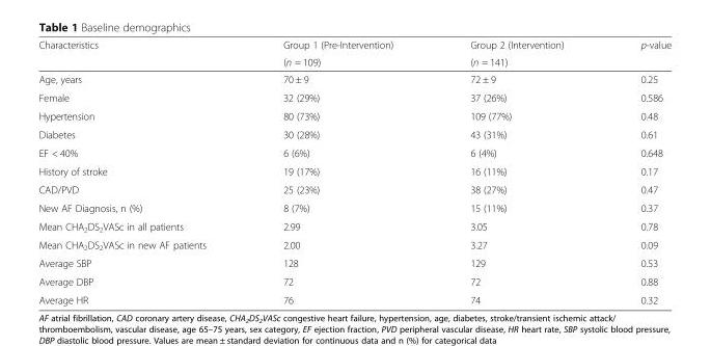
<table><thead><tr><td rowspan="2">Characteristics</td><td rowspan="2">Group 1 (Pre-Intervention) (n = 109)</td><td rowspan="2">Group 2 (Intervention) (n = 141)</td><td rowspan="2">p-value</td></tr><tr></tr></thead><tbody><tr><td>Age, years</td><td>70 ± 9</td><td>72 ± 9</td><td>0.25</td></tr><tr><td>Female</td><td>32 (29%)</td><td>37 (26%)</td><td>0.586</td></tr><tr><td>Hypertension</td><td>80 (73%)</td><td>109 (77%)</td><td>0.48</td></tr><tr><td>Diabetes</td><td>30 (28%)</td><td>43 (31%)</td><td>0.61</td></tr><tr><td>EF &lt; 40%</td><td>6 (6%)</td><td>6 (4%)</td><td>0.648</td></tr><tr><td>History of stroke</td><td>19 (17%)</td><td>16 (11%)</td><td>0.17</td></tr><tr><td>CAD/PVD</td><td>25 (23%)</td><td>38 (27%)</td><td>0.47</td></tr><tr><td>New AF Diagnosis, n (%)</td><td>8 (7%)</td><td>15 (11%)</td><td>0.37</td></tr><tr><td>Mean CHA<sub>2</sub>DS<sub>2</sub>VASc in all patients</td><td>2.99</td><td>3.05</td><td>0.78</td></tr><tr><td>Mean CHA<sub>2</sub>DS<sub>2</sub>VASc in new AF patients</td><td>2.00</td><td>3.27</td><td>0.09</td></tr><tr><td>Average SBP</td><td>128</td><td>129</td><td>0.53</td></tr><tr><td>Average DBP</td><td>72</td><td>72</td><td>0.88</td></tr><tr><td>Average HR</td><td>76</td><td>74</td><td>0.32</td></tr></tbody></table>